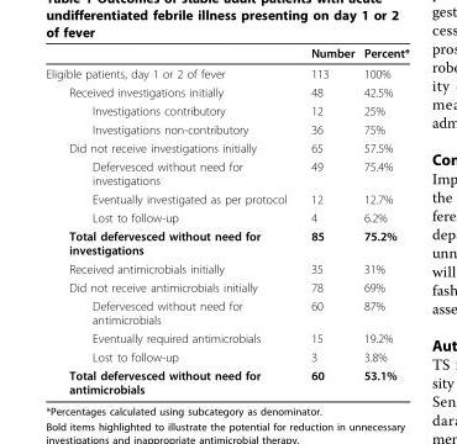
<table><thead><tr><td></td><td>Number</td><td>Percent*</td></tr></thead><tbody><tr><td>Eligible patients, day 1 or 2 of fever</td><td>113</td><td>100%</td></tr><tr><td>Received investigations initially</td><td>48</td><td>42.5%</td></tr><tr><td>Investigations contributory</td><td>12</td><td>25%</td></tr><tr><td>Investigations non-contributory</td><td>36</td><td>75%</td></tr><tr><td>Did not receive investigations initially</td><td>65</td><td>57.5%</td></tr><tr><td>Defervesced without need for investigations</td><td>49</td><td>75.4%</td></tr><tr><td>Eventually investigated as per protocol</td><td>12</td><td>12.7%</td></tr><tr><td>Lost to follow-up</td><td>4</td><td>6.2%</td></tr><tr><td>Total defervesced without need for investigations</td><td>85</td><td>75.2%</td></tr><tr><td>Received antimicrobials initially</td><td>35</td><td>31%</td></tr><tr><td>Did not receive antimicrobials initially</td><td>78</td><td>69%</td></tr><tr><td>Defervesced without need for antimicrobials</td><td>60</td><td>87%</td></tr><tr><td>Eventually required antimicrobials</td><td>15</td><td>19.2%</td></tr><tr><td>Lost to follow-up</td><td>3</td><td>3.8%</td></tr><tr><td>Total defervesced without need for antimicrobials</td><td>60</td><td>53.1%</td></tr></tbody></table>